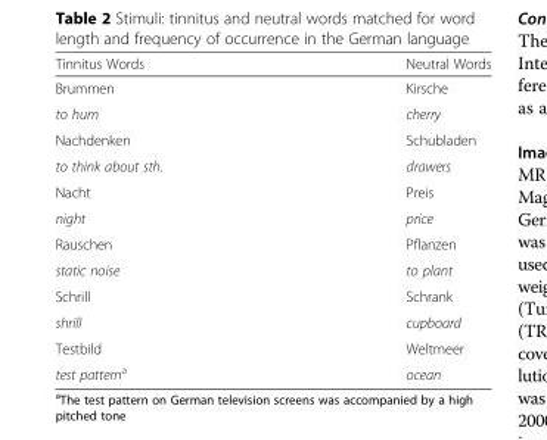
<table><thead><tr><td>Tinnitus Words</td><td>Neutral Words</td></tr></thead><tbody><tr><td>Brummen</td><td>Kirsche</td></tr><tr><td>to hum</td><td>cherry</td></tr><tr><td>Nachdenken</td><td>Schubladen</td></tr><tr><td>to think about sth.</td><td>drawers</td></tr><tr><td>Nacht</td><td>Preis</td></tr><tr><td>night</td><td>price</td></tr><tr><td>Rauschen</td><td>Pflanzen</td></tr><tr><td>static noise</td><td>to plant</td></tr><tr><td>Schrill</td><td>Schrank</td></tr><tr><td>shrill</td><td>cupboard</td></tr><tr><td>Testbild</td><td>Weltmeer</td></tr><tr><td>test pattern<sup>a</sup></td><td>ocean</td></tr></tbody></table>